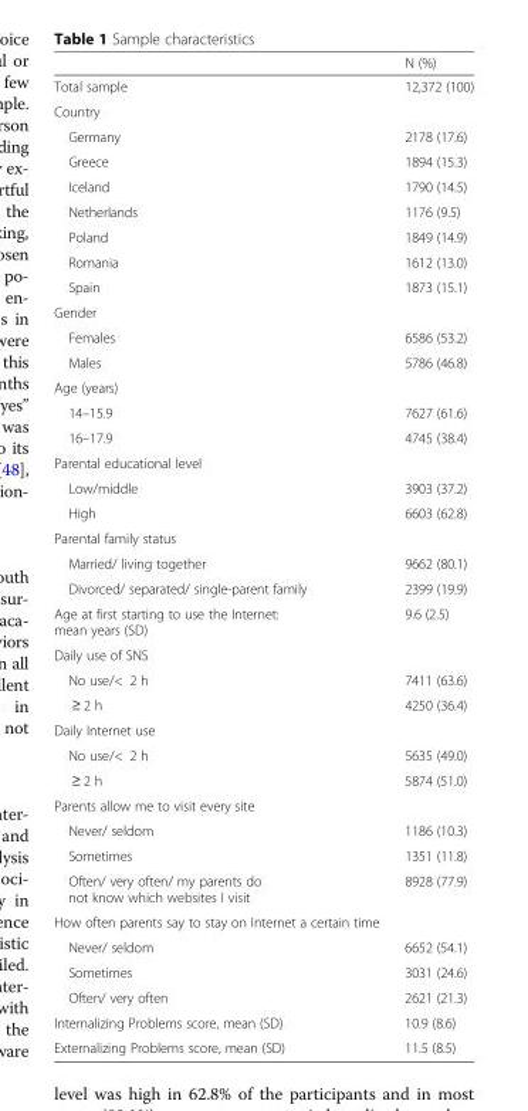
<table><thead><tr><td></td><td>Ν (%)</td></tr></thead><tbody><tr><td>Total sample</td><td>12,372 (100)</td></tr><tr><td colspan="2">Country</td></tr><tr><td>Germany</td><td>2178 (17.6)</td></tr><tr><td>Greece</td><td>1894 (15.3)</td></tr><tr><td>Iceland</td><td>1790 (14.5)</td></tr><tr><td>Netherlands</td><td>1176 (9.5)</td></tr><tr><td>Poland</td><td>1849 (14.9)</td></tr><tr><td>Romania</td><td>1612 (13.0)</td></tr><tr><td>Spain</td><td>1873 (15.1)</td></tr><tr><td colspan="2">Gender</td></tr><tr><td>Females</td><td>6586 (53.2)</td></tr><tr><td>Males</td><td>5786 (46.8)</td></tr><tr><td colspan="2">Age (years)</td></tr><tr><td>14–15.9</td><td>7627 (61.6)</td></tr><tr><td>16–17.9</td><td>4745 (38.4)</td></tr><tr><td colspan="2">Parental educational level</td></tr><tr><td>Low/middle</td><td>3903 (37.2)</td></tr><tr><td>High</td><td>6603 (62.8)</td></tr><tr><td colspan="2">Parental family status</td></tr><tr><td>Married/ living together</td><td>9662 (80.1)</td></tr><tr><td>Divorced/ separated/ single-parent family</td><td>2399 (19.9)</td></tr><tr><td>Age at first starting to use the Internet: mean years (SD)</td><td>9.6 (2.5)</td></tr><tr><td colspan="2">Daily use of SNS</td></tr><tr><td>No use/&lt; 2 h</td><td>7411 (63.6)</td></tr><tr><td>≥ 2 h</td><td>4250 (36.4)</td></tr><tr><td colspan="2">Daily Internet use</td></tr><tr><td>No use/&lt; 2 h</td><td>5635 (49.0)</td></tr><tr><td>≥ 2 h</td><td>5874 (51.0)</td></tr><tr><td colspan="2">Parents allow me to visit every site</td></tr><tr><td>Never/ seldom</td><td>1186 (10.3)</td></tr><tr><td>Sometimes</td><td>1351 (11.8)</td></tr><tr><td>Often/ very often/ my parents do not know which websites I visit</td><td>8928 (77.9)</td></tr><tr><td colspan="2">How often parents say to stay on Internet a certain time</td></tr><tr><td>Never/ seldom</td><td>6652 (54.1)</td></tr><tr><td>Sometimes</td><td>3031 (24.6)</td></tr><tr><td>Often/ very often</td><td>2621 (21.3)</td></tr><tr><td>Internalizing Problems score, mean (SD)</td><td>10.9 (8.6)</td></tr><tr><td>Externalizing Problems score, mean (SD)</td><td>11.5 (8.5)</td></tr></tbody></table>